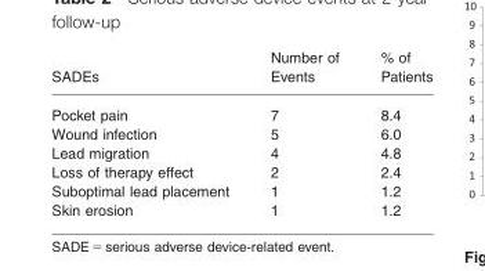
<table><thead><tr><td>SADEs</td><td>Number of Events</td><td>% of Patients</td></tr></thead><tbody><tr><td>Pocket pain</td><td>7</td><td>8.4</td></tr><tr><td>Wound infection</td><td>5</td><td>6.0</td></tr><tr><td>Lead migration</td><td>4</td><td>4.8</td></tr><tr><td>Loss of therapy effect</td><td>2</td><td>2.4</td></tr><tr><td>Suboptimal lead placement</td><td>1</td><td>1.2</td></tr><tr><td>Skin erosion</td><td>1</td><td>1.2</td></tr></tbody></table>